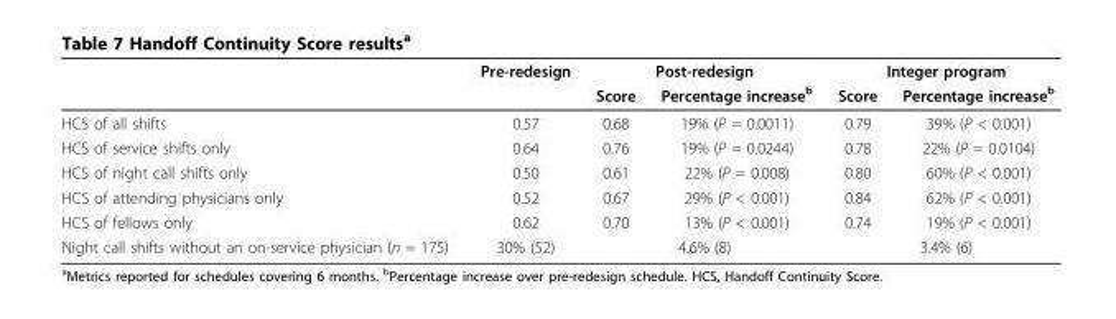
<table><thead><tr><td rowspan="2"></td><td rowspan="2">Pre-redesign</td><td colspan="2">Post-redesign</td><td colspan="2">Integer program</td></tr><tr><td>Score</td><td>Percentage increase<sup>b</sup></td><td>Score</td><td>Percentage increase<sup>b</sup></td></tr></thead><tbody><tr><td>HCS of all shifts</td><td>0.57</td><td>0.68</td><td>19% (P = 0.0011)</td><td>0.79</td><td>39% (P &lt; 0.001)</td></tr><tr><td>HCS of service shifts only</td><td>0.64</td><td>0.76</td><td>19% (P = 0.0244)</td><td>0.78</td><td>22% (P = 0.0104)</td></tr><tr><td>HCS of night call shifts only</td><td>0.50</td><td>0.61</td><td>22% (P = 0.008)</td><td>0.80</td><td>60% (P &lt; 0.001)</td></tr><tr><td>HCS of attending physicians only</td><td>0.52</td><td>0.67</td><td>29% (P &lt; 0.001)</td><td>0.84</td><td>62% (P &lt; 0.001)</td></tr><tr><td>HCS of fellows only</td><td>0.62</td><td>0.70</td><td>13% (P &lt; 0.001)</td><td>0.74</td><td>19% (P &lt; 0.001)</td></tr><tr><td>Night call shifts without an on-service physician (n = 175)</td><td>30% (52)</td><td colspan="2">4.6% (8)</td><td colspan="2">3.4% (6)</td></tr></tbody></table>